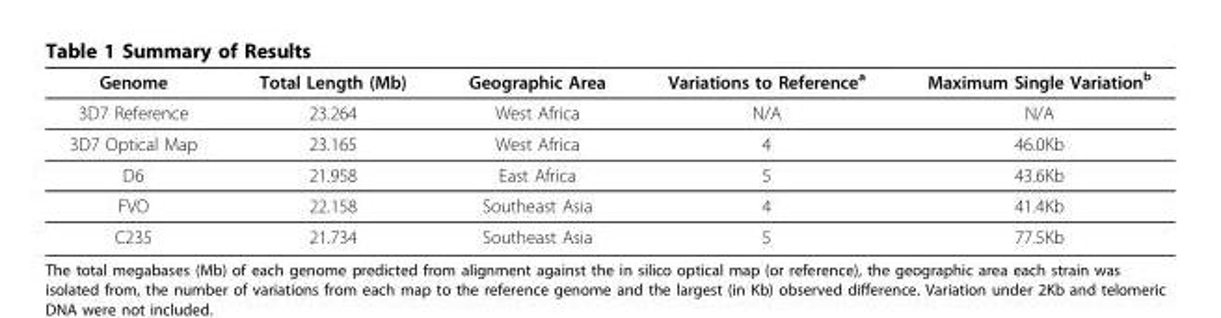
<table><thead><tr><td>Genome</td><td>Total Length (Mb)</td><td>Geographic Area</td><td>Variations to Reference<sup>a</sup></td><td>Maximum Single Variation<sup>b</sup></td></tr></thead><tbody><tr><td>3D7 Reference</td><td>23.264</td><td>West Africa</td><td>N/A</td><td>N/A</td></tr><tr><td>3D7 Optical Map</td><td>23.165</td><td>West Africa</td><td>4</td><td>46.0Kb</td></tr><tr><td>D6</td><td>21.958</td><td>East Africa</td><td>5</td><td>43.6Kb</td></tr><tr><td>FVO</td><td>22.158</td><td>Southeast Asia</td><td>4</td><td>41.4Kb</td></tr><tr><td>C235</td><td>21.734</td><td>Southeast Asia</td><td>5</td><td>77.5Kb</td></tr></tbody></table>